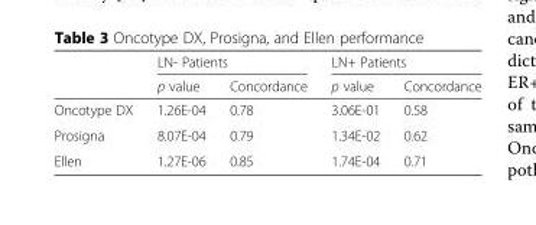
<table><thead><tr><td rowspan="2"></td><td colspan="2">LN- Patients</td><td colspan="2">LN+ Patients</td></tr><tr><td>p value</td><td>Concordance</td><td>p value</td><td>Concordance</td></tr></thead><tbody><tr><td>Oncotype DX</td><td>1.26E-04</td><td>0.78</td><td>3.06E-01</td><td>0.58</td></tr><tr><td>Prosigna</td><td>8.07E-04</td><td>0.79</td><td>1.34E-02</td><td>0.62</td></tr><tr><td>Ellen</td><td>1.27E-06</td><td>0.85</td><td>1.74E-04</td><td>0.71</td></tr></tbody></table>